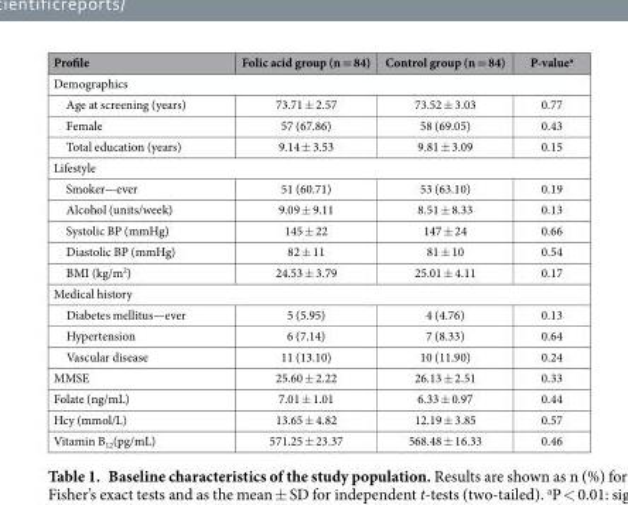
<table><thead><tr><td>Profile</td><td>Folic acid group (n = 84)</td><td>Control group (n = 84)</td><td>P-value<sup>a</sup></td></tr></thead><tbody><tr><td colspan="4">Demographics</td></tr><tr><td>Age at screening (years)</td><td>73.71 ± 2.57</td><td>73.52 ± 3.03</td><td>0.77</td></tr><tr><td>Female</td><td>57 (67.86)</td><td>58 (69.05)</td><td>0.43</td></tr><tr><td>Total education (years)</td><td>9.14 ± 3.53</td><td>9.81 ± 3.09</td><td>0.15</td></tr><tr><td colspan="4">Lifestyle</td></tr><tr><td>Smoker—ever</td><td>51 (60.71)</td><td>53 (63.10)</td><td>0.19</td></tr><tr><td>Alcohol (units/week)</td><td>9.09 ± 9.11</td><td>8.51 ± 8.33</td><td>0.13</td></tr><tr><td>Systolic BP (mmHg)</td><td>145 ± 22</td><td>147 ± 24</td><td>0.66</td></tr><tr><td>Diastolic BP (mmHg)</td><td>82 ± 11</td><td>81 ± 10</td><td>0.54</td></tr><tr><td>BMI (kg/m<sup>2</sup>)</td><td>24.53 ± 3.79</td><td>25.01 ± 4.11</td><td>0.17</td></tr><tr><td colspan="4">Medical history</td></tr><tr><td>Diabetes mellitus—ever</td><td>5 (5.95)</td><td>4 (4.76)</td><td>0.13</td></tr><tr><td>Hypertension</td><td>6 (7.14)</td><td>7 (8.33)</td><td>0.64</td></tr><tr><td>Vascular disease</td><td>11 (13.10)</td><td>10 (11.90)</td><td>0.24</td></tr><tr><td>MMSE</td><td>25.60 ± 2.22</td><td>26.13 ± 2.51</td><td>0.33</td></tr><tr><td>Folate (ng/mL)</td><td>7.01 ± 1.01</td><td>6.33 ± 0.97</td><td>0.44</td></tr><tr><td>Hcy (mmol/L)</td><td>13.65 ± 4.82</td><td>12.19 ± 3.85</td><td>0.57</td></tr><tr><td>Vitamin B<sub>12</sub>(pg/mL)</td><td>571.25 ± 23.37</td><td>568.48 ± 16.33</td><td>0.46</td></tr></tbody></table>